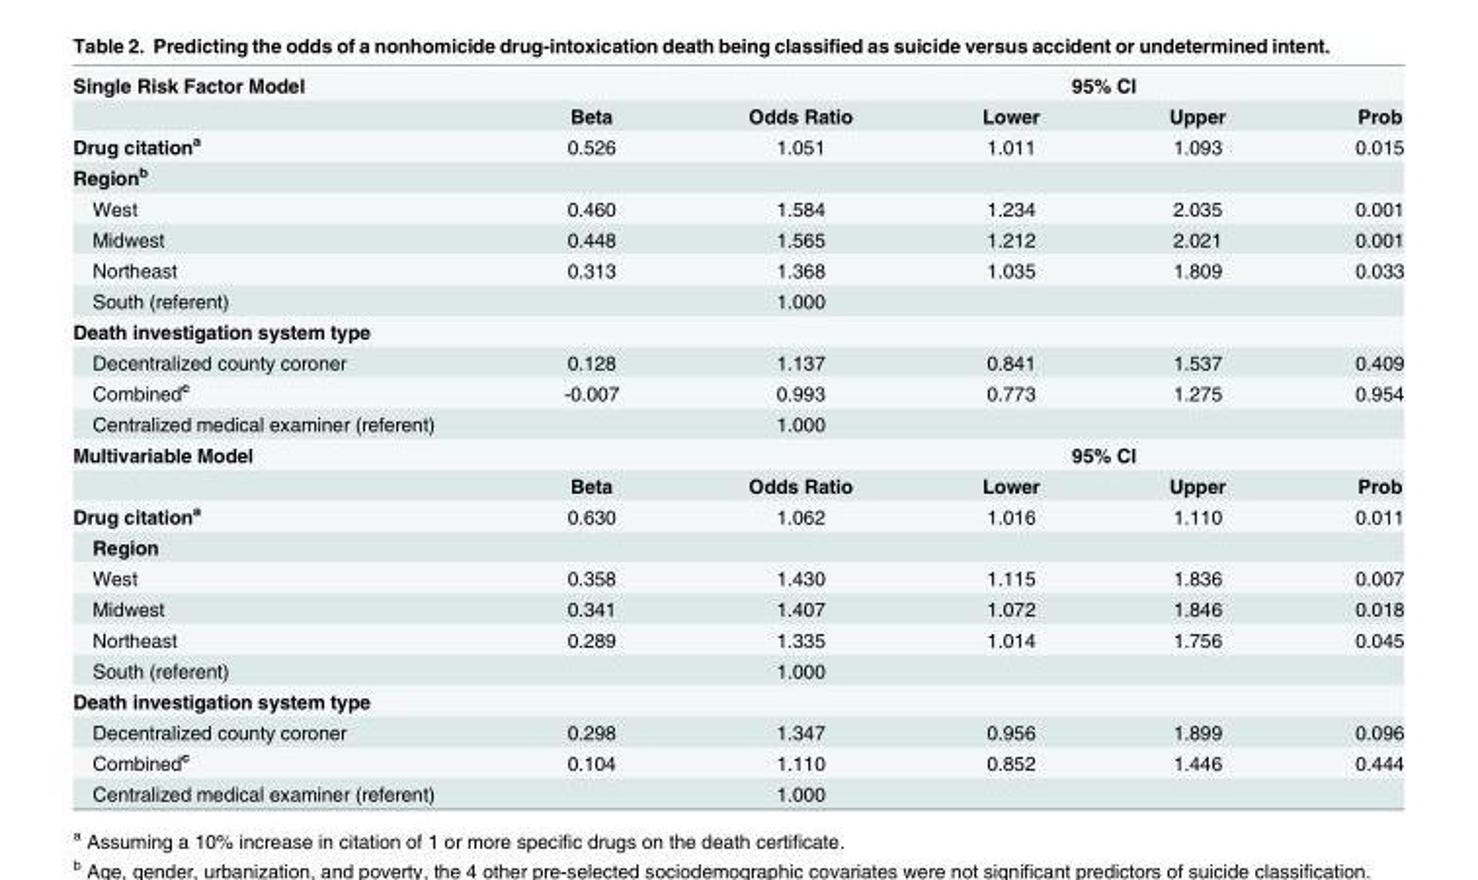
<table><tbody><tr><td rowspan="2">Single Risk Factor Model</td><td></td><td></td><td colspan="2">95% CI</td><td></td></tr><tr><td>Beta</td><td>Odds Ratio</td><td>Lower</td><td>Upper</td><td>Prob</td></tr><tr><td>Drug citation<sup>a</sup></td><td>0.526</td><td>1.051</td><td>1.011</td><td>1.093</td><td>0.015</td></tr><tr><td colspan="6">Region<sup>b</sup></td></tr><tr><td>West</td><td>0.460</td><td>1.584</td><td>1.234</td><td>2.035</td><td>0.001</td></tr><tr><td>Midwest</td><td>0.448</td><td>1.565</td><td>1.212</td><td>2.021</td><td>0.001</td></tr><tr><td>Northeast</td><td>0.313</td><td>1.368</td><td>1.035</td><td>1.809</td><td>0.033</td></tr><tr><td>South (referent)</td><td></td><td>1.000</td><td></td><td></td><td></td></tr><tr><td colspan="6">Death investigation system type</td></tr><tr><td>Decentralized county coroner</td><td>0.128</td><td>1.137</td><td>0.841</td><td>1.537</td><td>0.409</td></tr><tr><td>Combined<sup>c</sup></td><td>-0.007</td><td>0.993</td><td>0.773</td><td>1.275</td><td>0.954</td></tr><tr><td>Centralized medical examiner (referent)</td><td></td><td>1.000</td><td></td><td></td><td></td></tr><tr><td rowspan="2">Multivariable Model</td><td></td><td></td><td colspan="2">95% CI</td><td></td></tr><tr><td>Beta</td><td>Odds Ratio</td><td>Lower</td><td>Upper</td><td>Prob</td></tr><tr><td>Drug citation<sup>a</sup></td><td>0.630</td><td>1.062</td><td>1.016</td><td>1.110</td><td>0.011</td></tr><tr><td colspan="6">Region</td></tr><tr><td>West</td><td>0.358</td><td>1.430</td><td>1.115</td><td>1.836</td><td>0.007</td></tr><tr><td>Midwest</td><td>0.341</td><td>1.407</td><td>1.072</td><td>1.846</td><td>0.018</td></tr><tr><td>Northeast</td><td>0.289</td><td>1.335</td><td>1.014</td><td>1.756</td><td>0.045</td></tr><tr><td>South (referent)</td><td></td><td>1.000</td><td></td><td></td><td></td></tr><tr><td colspan="6">Death investigation system type</td></tr><tr><td>Decentralized county coroner</td><td>0.298</td><td>1.347</td><td>0.956</td><td>1.899</td><td>0.096</td></tr><tr><td>Combined<sup>c</sup></td><td>0.104</td><td>1.110</td><td>0.852</td><td>1.446</td><td>0.444</td></tr><tr><td>Centralized medical examiner (referent)</td><td></td><td>1.000</td><td></td><td></td><td></td></tr></tbody></table>